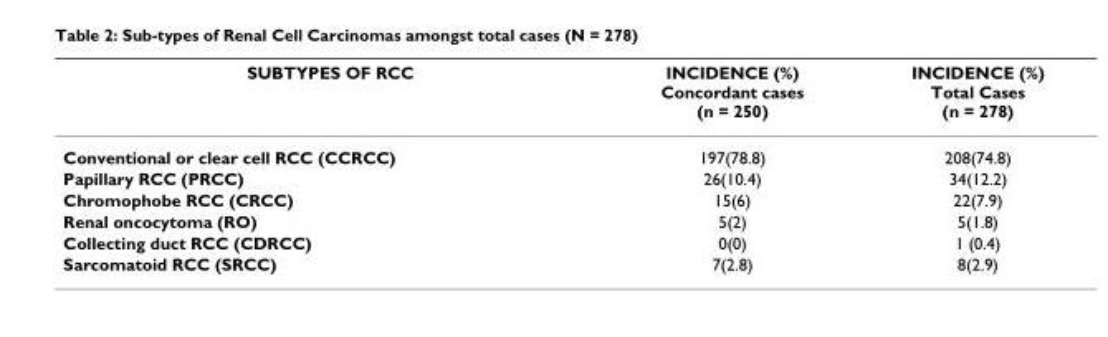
<table><thead><tr><td>SUBTYPES OF RCC</td><td>INCIDENCE (%) Concordant cases (n = 250)</td><td>INCIDENCE (%) Total Cases (n = 278)</td></tr></thead><tbody><tr><td>Conventional or clear cell RCC (CCRCC)</td><td>197(78.8)</td><td>208(74.8)</td></tr><tr><td>Papillary RCC (PRCC)</td><td>26(10.4)</td><td>34(12.2)</td></tr><tr><td>Chromophobe RCC (CRCC)</td><td>15(6)</td><td>22(7.9)</td></tr><tr><td>Renal oncocytoma (RO)</td><td>5(2)</td><td>5(1.8)</td></tr><tr><td>Collecting duct RCC (CDRCC)</td><td>0(0)</td><td>1 (0.4)</td></tr><tr><td>Sarcomatoid RCC (SRCC)</td><td>7(2.8)</td><td>8(2.9)</td></tr></tbody></table>